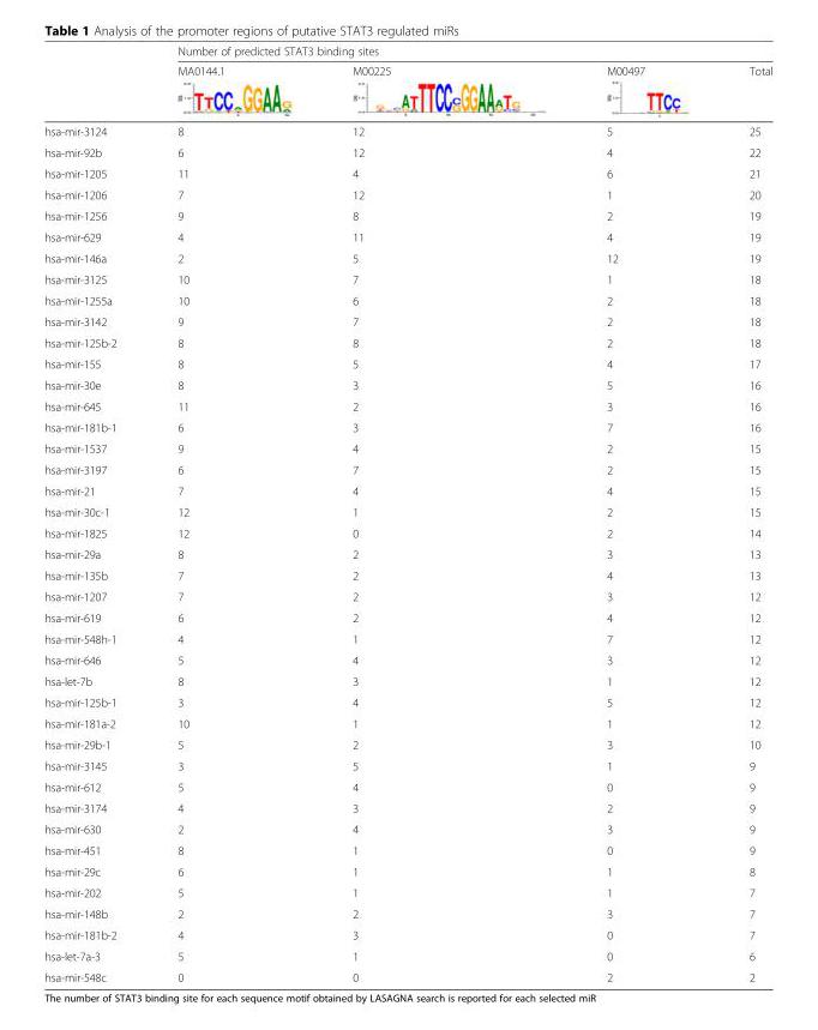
<table><thead><tr><td rowspan="2"></td><td colspan="4">Number of predicted STAT3 binding sites</td></tr><tr><td>MA0144.1</td><td>M00225</td><td>M00497</td><td>Total</td></tr></thead><tbody><tr><td>hsa-mir-3124</td><td>8</td><td>12</td><td>5</td><td>25</td></tr><tr><td>hsa-mir-92b</td><td>6</td><td>12</td><td>4</td><td>22</td></tr><tr><td>hsa-mir-1205</td><td>11</td><td>4</td><td>6</td><td>21</td></tr><tr><td>hsa-mir-1206</td><td>7</td><td>12</td><td>1</td><td>20</td></tr><tr><td>hsa-mir-1256</td><td>9</td><td>8</td><td>2</td><td>19</td></tr><tr><td>hsa-mir-629</td><td>4</td><td>11</td><td>4</td><td>19</td></tr><tr><td>hsa-mir-146a</td><td>2</td><td>5</td><td>12</td><td>19</td></tr><tr><td>hsa-mir-3125</td><td>10</td><td>7</td><td>1</td><td>18</td></tr><tr><td>hsa-mir-1255a</td><td>10</td><td>6</td><td>2</td><td>18</td></tr><tr><td>hsa-mir-3142</td><td>9</td><td>7</td><td>2</td><td>18</td></tr><tr><td>hsa-mir-125b-2</td><td>8</td><td>8</td><td>2</td><td>18</td></tr><tr><td>hsa-mir-155</td><td>8</td><td>5</td><td>4</td><td>17</td></tr><tr><td>hsa-mir-30e</td><td>8</td><td>3</td><td>5</td><td>16</td></tr><tr><td>hsa-mir-645</td><td>11</td><td>2</td><td>3</td><td>16</td></tr><tr><td>hsa-mir-181b-1</td><td>6</td><td>3</td><td>7</td><td>16</td></tr><tr><td>hsa-mir-1537</td><td>9</td><td>4</td><td>2</td><td>15</td></tr><tr><td>hsa-mir-3197</td><td>6</td><td>7</td><td>2</td><td>15</td></tr><tr><td>hsa-mir-21</td><td>7</td><td>4</td><td>4</td><td>15</td></tr><tr><td>hsa-mir-30c-1</td><td>12</td><td>1</td><td>2</td><td>15</td></tr><tr><td>hsa-mir-1825</td><td>12</td><td>0</td><td>2</td><td>14</td></tr><tr><td>hsa-mir-29a</td><td>8</td><td>2</td><td>3</td><td>13</td></tr><tr><td>hsa-mir-135b</td><td>7</td><td>2</td><td>4</td><td>13</td></tr><tr><td>hsa-mir-1207</td><td>7</td><td>2</td><td>3</td><td>12</td></tr><tr><td>hsa-mir-619</td><td>6</td><td>2</td><td>4</td><td>12</td></tr><tr><td>hsa-mir-548h-1</td><td>4</td><td>1</td><td>7</td><td>12</td></tr><tr><td>hsa-mir-646</td><td>5</td><td>4</td><td>3</td><td>12</td></tr><tr><td>hsa-let-7b</td><td>8</td><td>3</td><td>1</td><td>12</td></tr><tr><td>hsa-mir-125b-1</td><td>3</td><td>4</td><td>5</td><td>12</td></tr><tr><td>hsa-mir-181a-2</td><td>10</td><td>1</td><td>1</td><td>12</td></tr><tr><td>hsa-mir-29b-1</td><td>5</td><td>2</td><td>3</td><td>10</td></tr><tr><td>hsa-mir-3145</td><td>3</td><td>5</td><td>1</td><td>9</td></tr><tr><td>hsa-mir-612</td><td>5</td><td>4</td><td>0</td><td>9</td></tr><tr><td>hsa-mir-3174</td><td>4</td><td>3</td><td>2</td><td>9</td></tr><tr><td>hsa-mir-630</td><td>2</td><td>4</td><td>3</td><td>9</td></tr><tr><td>hsa-mir-451</td><td>8</td><td>1</td><td>0</td><td>9</td></tr><tr><td>hsa-mir-29c</td><td>6</td><td>1</td><td>1</td><td>8</td></tr><tr><td>hsa-mir-202</td><td>5</td><td>1</td><td>1</td><td>7</td></tr><tr><td>hsa-mir-148b</td><td>2</td><td>2</td><td>3</td><td>7</td></tr><tr><td>hsa-mir-181b-2</td><td>4</td><td>3</td><td>0</td><td>7</td></tr><tr><td>hsa-let-7a-3</td><td>5</td><td>1</td><td>0</td><td>6</td></tr><tr><td>hsa-mir-548c</td><td>0</td><td>0</td><td>2</td><td>2</td></tr></tbody></table>